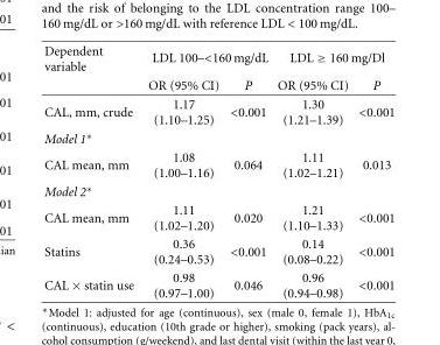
<table><thead><tr><td rowspan="2">Dependent variable</td><td colspan="2">LDL 100–&lt;160 mg/dL</td><td colspan="2">LDL ≥ 160 mg/Dl</td></tr><tr><td>OR (95% CI)</td><td>P</td><td>OR (95% CI)</td><td>P</td></tr></thead><tbody><tr><td>CAL, mm, crude</td><td>1.17 (1.10–1.25)</td><td>&lt;0.001</td><td>1.30 (1.21–1.39)</td><td>&lt;0.001</td></tr><tr><td colspan="5">Model 1∗</td></tr><tr><td>CAL mean, mm</td><td>1.08 (1.00–1.16)</td><td>0.064</td><td>1.11 (1.02–1.21)</td><td>0.013</td></tr><tr><td colspan="5">Model 2∗</td></tr><tr><td>CAL mean, mm</td><td>1.11 (1.02–1.20)</td><td>0.020</td><td>1.21 (1.10–1.33)</td><td>&lt;0.001</td></tr><tr><td>Statins</td><td>0.36 (0.24–0.53)</td><td>&lt;0.001</td><td>0.14 (0.08–0.22)</td><td>&lt;0.001</td></tr><tr><td>CAL × statin use</td><td>0.98 (0.97–1.00)</td><td>0.046</td><td>0.96 (0.94–0.98)</td><td>&lt;0.001</td></tr></tbody></table>